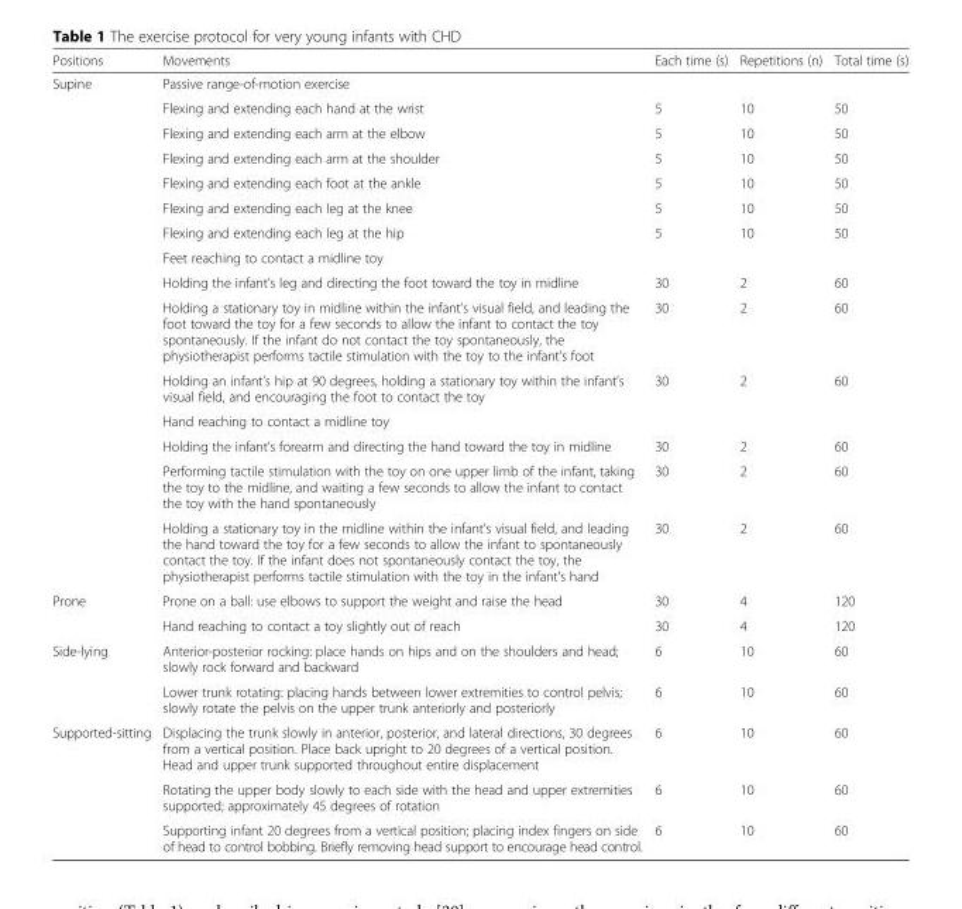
<table><thead><tr><td>Positions</td><td>Movements</td><td>Each time (s)</td><td>Repetitions (n)</td><td>Total time (s)</td></tr></thead><tbody><tr><td rowspan="15">Supine</td><td colspan="4">Passive range-of-motion exercise</td></tr><tr><td>Flexing and extending each hand at the wrist</td><td>5</td><td>10</td><td>50</td></tr><tr><td>Flexing and extending each arm at the elbow</td><td>5</td><td>10</td><td>50</td></tr><tr><td>Flexing and extending each arm at the shoulder</td><td>5</td><td>10</td><td>50</td></tr><tr><td>Flexing and extending each foot at the ankle</td><td>5</td><td>10</td><td>50</td></tr><tr><td>Flexing and extending each leg at the knee</td><td>5</td><td>10</td><td>50</td></tr><tr><td>Flexing and extending each leg at the hip</td><td>5</td><td>10</td><td>50</td></tr><tr><td colspan="4">Feet reaching to contact a midline toy</td></tr><tr><td>Holding the infant’s leg and directing the foot toward the toy in midline</td><td>30</td><td>2</td><td>60</td></tr><tr><td>Holding a stationary toy in midline within the infant’s visual field, and leading the foot toward the toy for a few seconds to allow the infant to contact the toy spontaneously. If the infant do not contact the toy spontaneously, the physiotherapist performs tactile stimulation with the toy to the infant’s foot</td><td>30</td><td>2</td><td>60</td></tr><tr><td>Holding an infant’s hip at 90 degrees, holding a stationary toy within the infant’s visual field, and encouraging the foot to contact the toy</td><td>30</td><td>2</td><td>60</td></tr><tr><td colspan="4">Hand reaching to contact a midline toy</td></tr><tr><td>Holding the infant’s forearm and directing the hand toward the toy in midline</td><td>30</td><td>2</td><td>60</td></tr><tr><td>Performing tactile stimulation with the toy on one upper limb of the infant, taking the toy to the midline, and waiting a few seconds to allow the infant to contact the toy with the hand spontaneously</td><td>30</td><td>2</td><td>60</td></tr><tr><td>Holding a stationary toy in the midline within the infant’s visual field, and leading the hand toward the toy for a few seconds to allow the infant to spontaneously contact the toy. If the infant does not spontaneously contact the toy, the physiotherapist performs tactile stimulation with the toy in the infant’s hand</td><td>30</td><td>2</td><td>60</td></tr><tr><td rowspan="2">Prone</td><td>Prone on a ball: use elbows to support the weight and raise the head</td><td>30</td><td>4</td><td>120</td></tr><tr><td>Hand reaching to contact a toy slightly out of reach</td><td>30</td><td>4</td><td>120</td></tr><tr><td rowspan="2">Side-lying</td><td>Anterior-posterior rocking: place hands on hips and on the shoulders and head; slowly rock forward and backward</td><td>6</td><td>10</td><td>60</td></tr><tr><td>Lower trunk rotating: placing hands between lower extremities to control pelvis; slowly rotate the pelvis on the upper trunk anteriorly and posteriorly</td><td>6</td><td>10</td><td>60</td></tr><tr><td rowspan="3">Supported-sitting</td><td>Displacing the trunk slowly in anterior, posterior, and lateral directions, 30 degrees from a vertical position. Place back upright to 20 degrees of a vertical position. Head and upper trunk supported throughout entire displacement</td><td>6</td><td>10</td><td>60</td></tr><tr><td>Rotating the upper body slowly to each side with the head and upper extremities supported; approximately 45 degrees of rotation</td><td>6</td><td>10</td><td>60</td></tr><tr><td>Supporting infant 20 degrees from a vertical position; placing index fingers on side of head to control bobbing. Briefly removing head support to encourage head control.</td><td>6</td><td>10</td><td>60</td></tr></tbody></table>